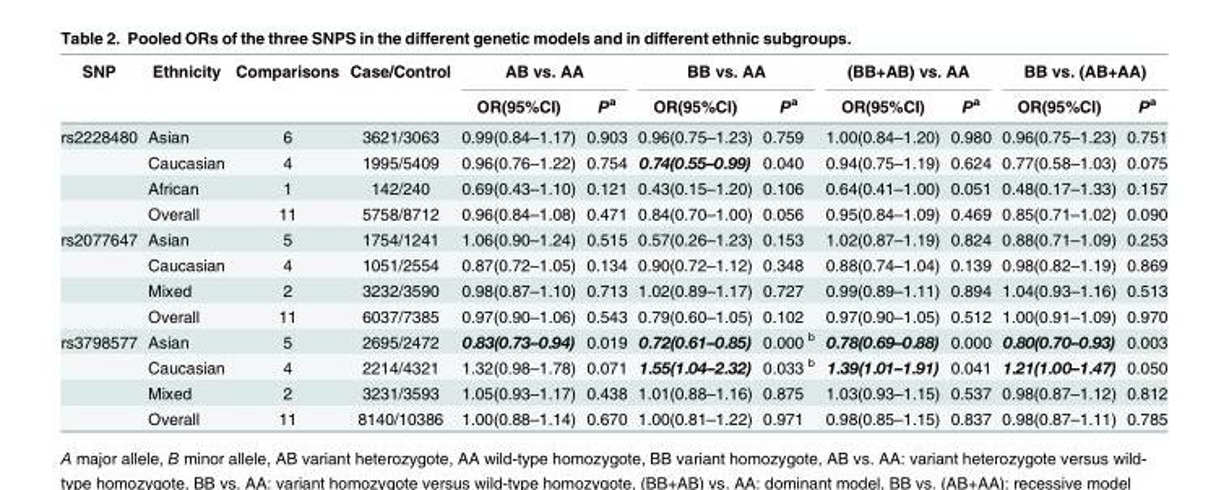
<table><thead><tr><td rowspan="2">SNP</td><td rowspan="2">Ethnicity</td><td rowspan="2">Comparisons</td><td rowspan="2">Case/Control</td><td colspan="2">AB vs. AA</td><td colspan="2">BB vs. AA</td><td colspan="2">(BB+AB) vs. AA</td><td colspan="2">BB vs. (AB+AA)</td></tr><tr><td>OR(95%CI)</td><td>P<sup>a</sup></td><td>OR(95%CI)</td><td>P<sup>a</sup></td><td>OR(95%CI)</td><td>P<sup>a</sup></td><td>OR(95%CI)</td><td>P<sup>a</sup></td></tr></thead><tbody><tr><td rowspan="4">rs2228480</td><td>Asian</td><td>6</td><td>3621/3063</td><td>0.99(0.84–1.17)</td><td>0.903</td><td>0.96(0.75–1.23)</td><td>0.759</td><td>1.00(0.84–1.20)</td><td>0.980</td><td>0.96(0.75–1.23)</td><td>0.751</td></tr><tr><td>Caucasian</td><td>4</td><td>1995/5409</td><td>0.96(0.76–1.22)</td><td>0.754</td><td>0.74(0.55–0.99)</td><td>0.040</td><td>0.94(0.75–1.19)</td><td>0.624</td><td>0.77(0.58–1.03)</td><td>0.075</td></tr><tr><td>African</td><td>1</td><td>142/240</td><td>0.69(0.43–1.10)</td><td>0.121</td><td>0.43(0.15–1.20)</td><td>0.106</td><td>0.64(0.41–1.00)</td><td>0.051</td><td>0.48(0.17–1.33)</td><td>0.157</td></tr><tr><td>Overall</td><td>11</td><td>5758/8712</td><td>0.96(0.84–1.08)</td><td>0.471</td><td>0.84(0.70–1.00)</td><td>0.056</td><td>0.95(0.84–1.09)</td><td>0.469</td><td>0.85(0.71–1.02)</td><td>0.090</td></tr><tr><td rowspan="4">rs2077647</td><td>Asian</td><td>5</td><td>1754/1241</td><td>1.06(0.90–1.24)</td><td>0.515</td><td>0.57(0.26–1.23)</td><td>0.153</td><td>1.02(0.87–1.19)</td><td>0.824</td><td>0.88(0.71–1.09)</td><td>0.253</td></tr><tr><td>Caucasian</td><td>4</td><td>1051/2554</td><td>0.87(0.72–1.05)</td><td>0.134</td><td>0.90(0.72–1.12)</td><td>0.348</td><td>0.88(0.74–1.04)</td><td>0.139</td><td>0.98(0.82–1.19)</td><td>0.869</td></tr><tr><td>Mixed</td><td>2</td><td>3232/3590</td><td>0.98(0.87–1.10)</td><td>0.713</td><td>1.02(0.89–1.17)</td><td>0.727</td><td>0.99(0.89–1.11)</td><td>0.894</td><td>1.04(0.93–1.16)</td><td>0.513</td></tr><tr><td>Overall</td><td>11</td><td>6037/7385</td><td>0.97(0.90–1.06)</td><td>0.543</td><td>0.79(0.60–1.05)</td><td>0.102</td><td>0.97(0.90–1.05)</td><td>0.512</td><td>1.00(0.91–1.09)</td><td>0.970</td></tr><tr><td rowspan="4">rs3798577</td><td>Asian</td><td>5</td><td>2695/2472</td><td>0.83(0.73–0.94)</td><td>0.019</td><td>0.72(0.61–0.85)</td><td>0.000 <sup>b</sup></td><td>0.78(0.69–0.88)</td><td>0.000</td><td>0.80(0.70–0.93)</td><td>0.003</td></tr><tr><td>Caucasian</td><td>4</td><td>2214/4321</td><td>1.32(0.98–1.78)</td><td>0.071</td><td>1.55(1.04–2.32)</td><td>0.033 <sup>b</sup></td><td>1.39(1.01–1.91)</td><td>0.041</td><td>1.21(1.00–1.47)</td><td>0.050</td></tr><tr><td>Mixed</td><td>2</td><td>3231/3593</td><td>1.05(0.93–1.17)</td><td>0.438</td><td>1.01(0.88–1.16)</td><td>0.875</td><td>1.03(0.93–1.15)</td><td>0.537</td><td>0.98(0.87–1.12)</td><td>0.812</td></tr><tr><td>Overall</td><td>11</td><td>8140/10386</td><td>1.00(0.88–1.14)</td><td>0.670</td><td>1.00(0.81–1.22)</td><td>0.971</td><td>0.98(0.85–1.15)</td><td>0.837</td><td>0.98(0.87–1.11)</td><td>0.785</td></tr></tbody></table>